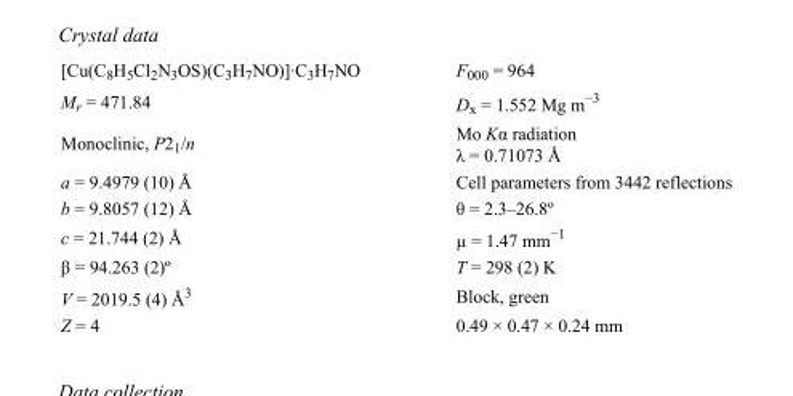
<table><tbody><tr><td>[Cu(C<sub>8</sub>H<sub>5</sub>Cl<sub>2</sub>N<sub>3</sub>OS)(C<sub>3</sub>H<sub>7</sub>NO)]·C<sub>3</sub>H<sub>7</sub>NO</td><td>F<sub>000</sub> = 964</td></tr><tr><td>M<sub>r</sub> = 471.84</td><td>D<sub>x</sub> = 1.552 Mg m<sup>−3</sup></td></tr><tr><td>Monoclinic, P2<sub>1</sub>/n</td><td>Mo Kα radiation λ = 0.71073 Å</td></tr><tr><td>a = 9.4979 (10) Å</td><td>Cell parameters from 3442 reflections</td></tr><tr><td>b = 9.8057 (12) Å</td><td>θ = 2.3–26.8º</td></tr><tr><td>c = 21.744 (2) Å</td><td>µ = 1.47 mm<sup>−1</sup></td></tr><tr><td>β = 94.263 (2)º</td><td>T = 298 (2) K</td></tr><tr><td>V = 2019.5 (4) Å<sup>3</sup></td><td>Block, green</td></tr><tr><td>Z = 4</td><td>0.49 × 0.47 × 0.24 mm</td></tr></tbody></table>